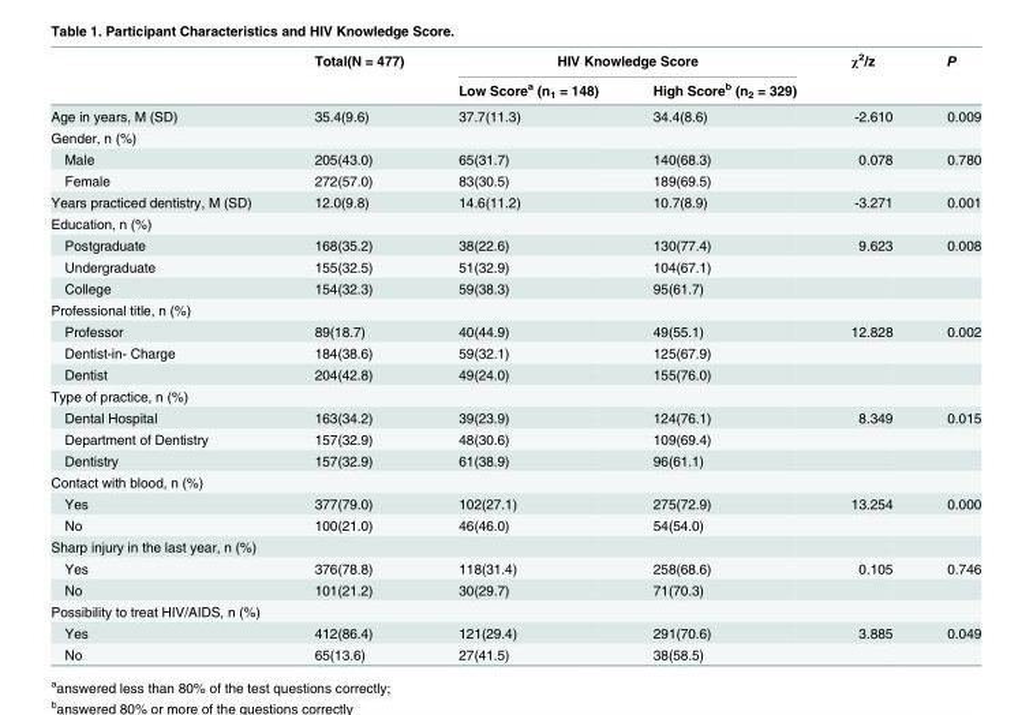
<table><thead><tr><td rowspan="2"></td><td rowspan="2">Total(N = 477)</td><td colspan="2">HIV Knowledge Score</td><td rowspan="2">χ<sup>2</sup>/z</td><td rowspan="2">P</td></tr><tr><td>Low Score<sup>a</sup> (n<sub>1</sub> = 148)</td><td>High Score<sup>b</sup> (n<sub>2</sub> = 329)</td></tr></thead><tbody><tr><td>Age in years, M (SD)</td><td>35.4(9.6)</td><td>37.7(11.3)</td><td>34.4(8.6)</td><td>-2.610</td><td>0.009</td></tr><tr><td colspan="6">Gender, n (%)</td></tr><tr><td>Male</td><td>205(43.0)</td><td>65(31.7)</td><td>140(68.3)</td><td>0.078</td><td>0.780</td></tr><tr><td>Female</td><td>272(57.0)</td><td>83(30.5)</td><td>189(69.5)</td><td></td><td></td></tr><tr><td>Years practiced dentistry, M (SD)</td><td>12.0(9.8)</td><td>14.6(11.2)</td><td>10.7(8.9)</td><td>-3.271</td><td>0.001</td></tr><tr><td colspan="6">Education, n (%)</td></tr><tr><td>Postgraduate</td><td>168(35.2)</td><td>38(22.6)</td><td>130(77.4)</td><td>9.623</td><td>0.008</td></tr><tr><td>Undergraduate</td><td>155(32.5)</td><td>51(32.9)</td><td>104(67.1)</td><td></td><td></td></tr><tr><td>College</td><td>154(32.3)</td><td>59(38.3)</td><td>95(61.7)</td><td></td><td></td></tr><tr><td colspan="6">Professional title, n (%)</td></tr><tr><td>Professor</td><td>89(18.7)</td><td>40(44.9)</td><td>49(55.1)</td><td>12.828</td><td>0.002</td></tr><tr><td>Dentist-in- Charge</td><td>184(38.6)</td><td>59(32.1)</td><td>125(67.9)</td><td></td><td></td></tr><tr><td>Dentist</td><td>204(42.8)</td><td>49(24.0)</td><td>155(76.0)</td><td></td><td></td></tr><tr><td colspan="6">Type of practice, n (%)</td></tr><tr><td>Dental Hospital</td><td>163(34.2)</td><td>39(23.9)</td><td>124(76.1)</td><td>8.349</td><td>0.015</td></tr><tr><td>Department of Dentistry</td><td>157(32.9)</td><td>48(30.6)</td><td>109(69.4)</td><td></td><td></td></tr><tr><td>Dentistry</td><td>157(32.9)</td><td>61(38.9)</td><td>96(61.1)</td><td></td><td></td></tr><tr><td colspan="6">Contact with blood, n (%)</td></tr><tr><td>Yes</td><td>377(79.0)</td><td>102(27.1)</td><td>275(72.9)</td><td>13.254</td><td>0.000</td></tr><tr><td>No</td><td>100(21.0)</td><td>46(46.0)</td><td>54(54.0)</td><td></td><td></td></tr><tr><td colspan="6">Sharp injury in the last year, n (%)</td></tr><tr><td>Yes</td><td>376(78.8)</td><td>118(31.4)</td><td>258(68.6)</td><td>0.105</td><td>0.746</td></tr><tr><td>No</td><td>101(21.2)</td><td>30(29.7)</td><td>71(70.3)</td><td></td><td></td></tr><tr><td colspan="6">Possibility to treat HIV/AIDS, n (%)</td></tr><tr><td>Yes</td><td>412(86.4)</td><td>121(29.4)</td><td>291(70.6)</td><td>3.885</td><td>0.049</td></tr><tr><td>No</td><td>65(13.6)</td><td>27(41.5)</td><td>38(58.5)</td><td></td><td></td></tr></tbody></table>